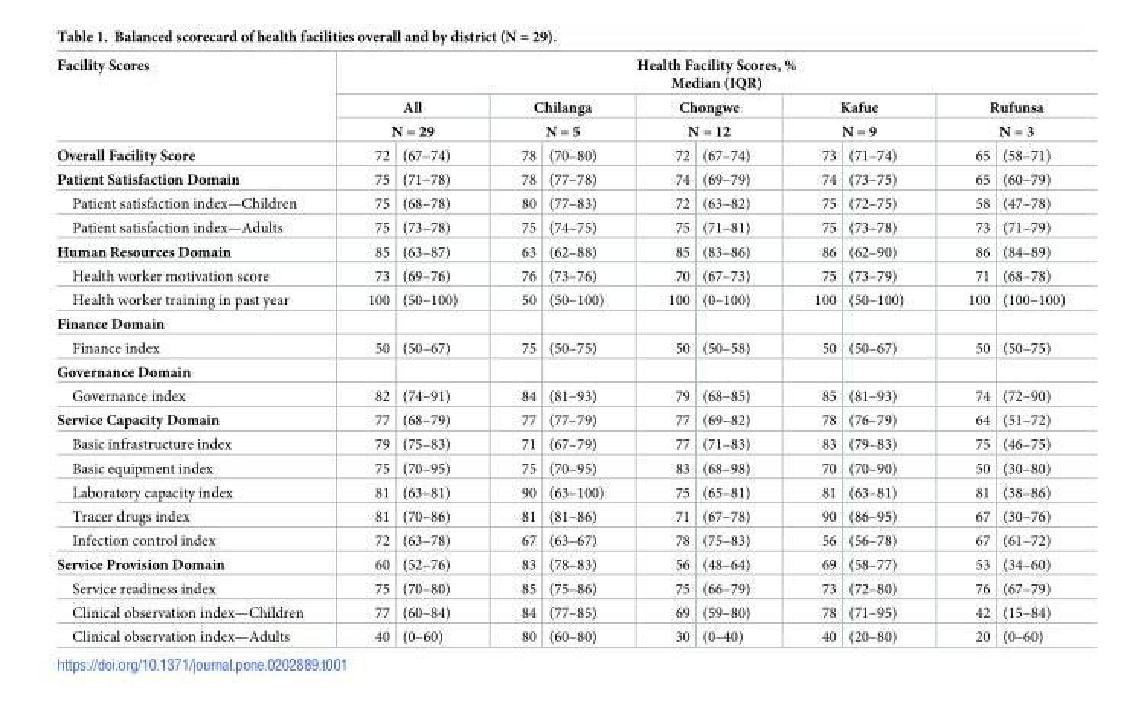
<table><thead><tr><td rowspan="4">Facility Scores Overall Facility Score</td><td colspan="10">Health Facility Scores, % Median (IQR)</td></tr><tr><td rowspan="2" colspan="2">All N = 29</td><td rowspan="2" colspan="2">Chilanga N = 5</td><td rowspan="2" colspan="2">Chongwe N = 12</td><td rowspan="2" colspan="2">Kafue N = 9</td><td rowspan="2" colspan="2">Rufunsa N = 3</td></tr><tr></tr><tr><td>72</td><td>(67–74)</td><td>78</td><td>(70–80)</td><td>72</td><td>(67–74)</td><td>73</td><td>(71–74)</td><td>65</td><td>(58–71)</td></tr></thead><tbody><tr><td>Patient Satisfaction Domain</td><td>75</td><td>(71–78)</td><td>78</td><td>(77–78)</td><td>74</td><td>(69–79)</td><td>74</td><td>(73–75)</td><td>65</td><td>(60–79)</td></tr><tr><td>Patient satisfaction index—Children</td><td>75</td><td>(68–78)</td><td>80</td><td>(77–83)</td><td>72</td><td>(63–82)</td><td>75</td><td>(72–75)</td><td>58</td><td>(47–78)</td></tr><tr><td>Patient satisfaction index—Adults</td><td>75</td><td>(73–78)</td><td>75</td><td>(74–75)</td><td>75</td><td>(71–81)</td><td>75</td><td>(73–78)</td><td>73</td><td>(71–79)</td></tr><tr><td>Human Resources Domain</td><td>85</td><td>(63–87)</td><td>63</td><td>(62–88)</td><td>85</td><td>(83–86)</td><td>86</td><td>(62–90)</td><td>86</td><td>(84–89)</td></tr><tr><td>Health worker motivation score</td><td>73</td><td>(69–76)</td><td>76</td><td>(73–76)</td><td>70</td><td>(67–73)</td><td>75</td><td>(73–79)</td><td>71</td><td>(68–78)</td></tr><tr><td>Health worker training in past year</td><td>100</td><td>(50–100)</td><td>50</td><td>(50–100)</td><td>100</td><td>(0–100)</td><td>100</td><td>(50–100)</td><td>100</td><td>(100–100)</td></tr><tr><td colspan="11">Finance Domain</td></tr><tr><td>Finance index</td><td>50</td><td>(50–67)</td><td>75</td><td>(50–75)</td><td>50</td><td>(50–58)</td><td>50</td><td>(50–67)</td><td>50</td><td>(50–75)</td></tr><tr><td colspan="11">Governance Domain</td></tr><tr><td>Governance index</td><td>82</td><td>(74–91)</td><td>84</td><td>(81–93)</td><td>79</td><td>(68–85)</td><td>85</td><td>(81–93)</td><td>74</td><td>(72–90)</td></tr><tr><td>Service Capacity Domain</td><td>77</td><td>(68–79)</td><td>77</td><td>(77–79)</td><td>77</td><td>(69–82)</td><td>78</td><td>(76–79)</td><td>64</td><td>(51–72)</td></tr><tr><td>Basic infrastructure index</td><td>79</td><td>(75–83)</td><td>71</td><td>(67–79)</td><td>77</td><td>(71–83)</td><td>83</td><td>(79–83)</td><td>75</td><td>(46–75)</td></tr><tr><td>Basic equipment index</td><td>75</td><td>(70–95)</td><td>75</td><td>(70–95)</td><td>83</td><td>(68–98)</td><td>70</td><td>(70–90)</td><td>50</td><td>(30–80)</td></tr><tr><td>Laboratory capacity index</td><td>81</td><td>(63–81)</td><td>90</td><td>(63–100)</td><td>75</td><td>(65–81)</td><td>81</td><td>(63–81)</td><td>81</td><td>(38–86)</td></tr><tr><td>Tracer drugs index</td><td>81</td><td>(70–86)</td><td>81</td><td>(81–86)</td><td>71</td><td>(67–78)</td><td>90</td><td>(86–95)</td><td>67</td><td>(30–76)</td></tr><tr><td>Infection control index</td><td>72</td><td>(63–78)</td><td>67</td><td>(63–67)</td><td>78</td><td>(75–83)</td><td>56</td><td>(56–78)</td><td>67</td><td>(61–72)</td></tr><tr><td>Service Provision Domain</td><td>60</td><td>(52–76)</td><td>83</td><td>(78–83)</td><td>56</td><td>(48–64)</td><td>69</td><td>(58–77)</td><td>53</td><td>(34–60)</td></tr><tr><td>Service readiness index</td><td>75</td><td>(70–80)</td><td>85</td><td>(75–86)</td><td>75</td><td>(66–79)</td><td>73</td><td>(72–80)</td><td>76</td><td>(67–79)</td></tr><tr><td>Clinical observation index—Children</td><td>77</td><td>(60–84)</td><td>84</td><td>(77–85)</td><td>69</td><td>(59–80)</td><td>78</td><td>(71–95)</td><td>42</td><td>(15–84)</td></tr><tr><td>Clinical observation index—Adults</td><td>40</td><td>(0–60)</td><td>80</td><td>(60–80)</td><td>30</td><td>(0–40)</td><td>40</td><td>(20–80)</td><td>20</td><td>(0–60)</td></tr></tbody></table>